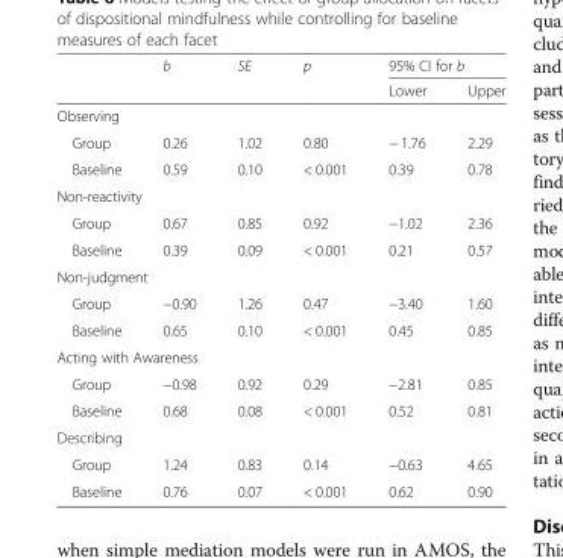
<table><thead><tr><td rowspan="2"></td><td rowspan="2">b</td><td rowspan="2">SE</td><td rowspan="2">p</td><td colspan="2">95% CI for b</td></tr><tr><td>Lower</td><td>Upper</td></tr></thead><tbody><tr><td colspan="6">Observing</td></tr><tr><td>Group</td><td>0.26</td><td>1.02</td><td>0.80</td><td>− 1.76</td><td>2.29</td></tr><tr><td>Baseline</td><td>0.59</td><td>0.10</td><td>&lt; 0.001</td><td>0.39</td><td>0.78</td></tr><tr><td colspan="6">Non-reactivity</td></tr><tr><td>Group</td><td>0.67</td><td>0.85</td><td>0.92</td><td>−1.02</td><td>2.36</td></tr><tr><td>Baseline</td><td>0.39</td><td>0.09</td><td>&lt; 0.001</td><td>0.21</td><td>0.57</td></tr><tr><td colspan="6">Non-judgment</td></tr><tr><td>Group</td><td>−0.90</td><td>1.26</td><td>0.47</td><td>−3.40</td><td>1.60</td></tr><tr><td>Baseline</td><td>0.65</td><td>0.10</td><td>&lt; 0.001</td><td>0.45</td><td>0.85</td></tr><tr><td colspan="6">Acting with Awareness</td></tr><tr><td>Group</td><td>−0.98</td><td>0.92</td><td>0.29</td><td>−2.81</td><td>0.85</td></tr><tr><td>Baseline</td><td>0.68</td><td>0.08</td><td>&lt; 0.001</td><td>0.52</td><td>0.81</td></tr><tr><td colspan="6">Describing</td></tr><tr><td>Group</td><td>1.24</td><td>0.83</td><td>0.14</td><td>−0.63</td><td>4.65</td></tr><tr><td>Baseline</td><td>0.76</td><td>0.07</td><td>&lt; 0.001</td><td>0.62</td><td>0.90</td></tr></tbody></table>